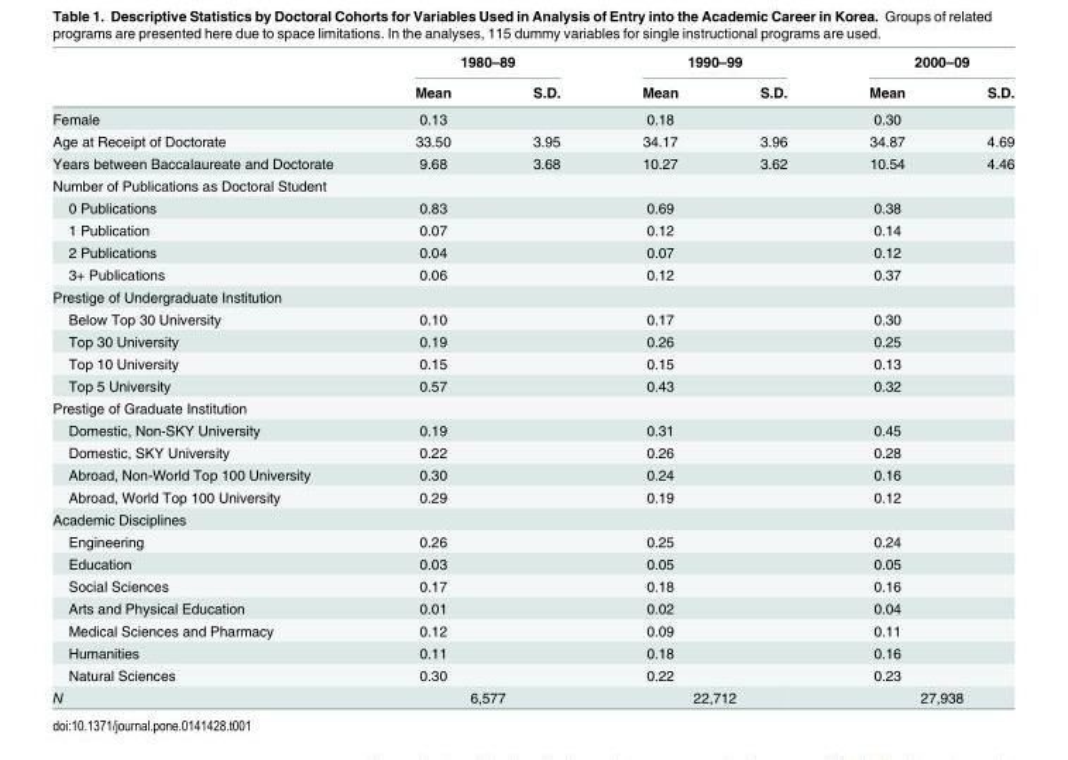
<table><thead><tr><td rowspan="2"></td><td colspan="2">1980–89</td><td colspan="2">1990–99</td><td colspan="2">2000–09</td></tr><tr><td>Mean</td><td>S.D.</td><td>Mean</td><td>S.D.</td><td>Mean</td><td>S.D.</td></tr></thead><tbody><tr><td>Female</td><td>0.13</td><td></td><td>0.18</td><td></td><td>0.30</td><td></td></tr><tr><td>Age at Receipt of Doctorate</td><td>33.50</td><td>3.95</td><td>34.17</td><td>3.96</td><td>34.87</td><td>4.69</td></tr><tr><td>Years between Baccalaureate and Doctorate</td><td>9.68</td><td>3.68</td><td>10.27</td><td>3.62</td><td>10.54</td><td>4.46</td></tr><tr><td colspan="7">Number of Publications as Doctoral Student</td></tr><tr><td>0 Publications</td><td>0.83</td><td></td><td>0.69</td><td></td><td>0.38</td><td></td></tr><tr><td>1 Publication</td><td>0.07</td><td></td><td>0.12</td><td></td><td>0.14</td><td></td></tr><tr><td>2 Publications</td><td>0.04</td><td></td><td>0.07</td><td></td><td>0.12</td><td></td></tr><tr><td>3+ Publications</td><td>0.06</td><td></td><td>0.12</td><td></td><td>0.37</td><td></td></tr><tr><td colspan="7">Prestige of Undergraduate Institution</td></tr><tr><td>Below Top 30 University</td><td>0.10</td><td></td><td>0.17</td><td></td><td>0.30</td><td></td></tr><tr><td>Top 30 University</td><td>0.19</td><td></td><td>0.26</td><td></td><td>0.25</td><td></td></tr><tr><td>Top 10 University</td><td>0.15</td><td></td><td>0.15</td><td></td><td>0.13</td><td></td></tr><tr><td>Top 5 University</td><td>0.57</td><td></td><td>0.43</td><td></td><td>0.32</td><td></td></tr><tr><td colspan="7">Prestige of Graduate Institution</td></tr><tr><td>Domestic, Non-SKY University</td><td>0.19</td><td></td><td>0.31</td><td></td><td>0.45</td><td></td></tr><tr><td>Domestic, SKY University</td><td>0.22</td><td></td><td>0.26</td><td></td><td>0.28</td><td></td></tr><tr><td>Abroad, Non-World Top 100 University</td><td>0.30</td><td></td><td>0.24</td><td></td><td>0.16</td><td></td></tr><tr><td>Abroad, World Top 100 University</td><td>0.29</td><td></td><td>0.19</td><td></td><td>0.12</td><td></td></tr><tr><td colspan="7">Academic Disciplines</td></tr><tr><td>Engineering</td><td>0.26</td><td></td><td>0.25</td><td></td><td>0.24</td><td></td></tr><tr><td>Education</td><td>0.03</td><td></td><td>0.05</td><td></td><td>0.05</td><td></td></tr><tr><td>Social Sciences</td><td>0.17</td><td></td><td>0.18</td><td></td><td>0.16</td><td></td></tr><tr><td>Arts and Physical Education</td><td>0.01</td><td></td><td>0.02</td><td></td><td>0.04</td><td></td></tr><tr><td>Medical Sciences and Pharmacy</td><td>0.12</td><td></td><td>0.09</td><td></td><td>0.11</td><td></td></tr><tr><td>Humanities</td><td>0.11</td><td></td><td>0.18</td><td></td><td>0.16</td><td></td></tr><tr><td>Natural Sciences</td><td>0.30</td><td></td><td>0.22</td><td></td><td>0.23</td><td></td></tr><tr><td>N</td><td colspan="2">6,577</td><td colspan="2">22,712</td><td colspan="2">27,938</td></tr></tbody></table>